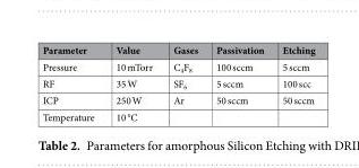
<table><thead><tr><td>Parameter</td><td>Value</td><td>Gases</td><td>Passivation</td><td>Etching</td></tr></thead><tbody><tr><td>Pressure</td><td>10 mTorr</td><td>C<sub>4</sub>F<sub>8</sub></td><td>100 sccm</td><td>5 sccm</td></tr><tr><td>RF</td><td>35 W</td><td>SF<sub>6</sub></td><td>5 sccm</td><td>100 scc</td></tr><tr><td>ICP</td><td>250 W</td><td>Ar</td><td>50 sccm</td><td>50 sccm</td></tr><tr><td>Temperature</td><td>10 °C</td><td></td><td></td><td></td></tr></tbody></table>